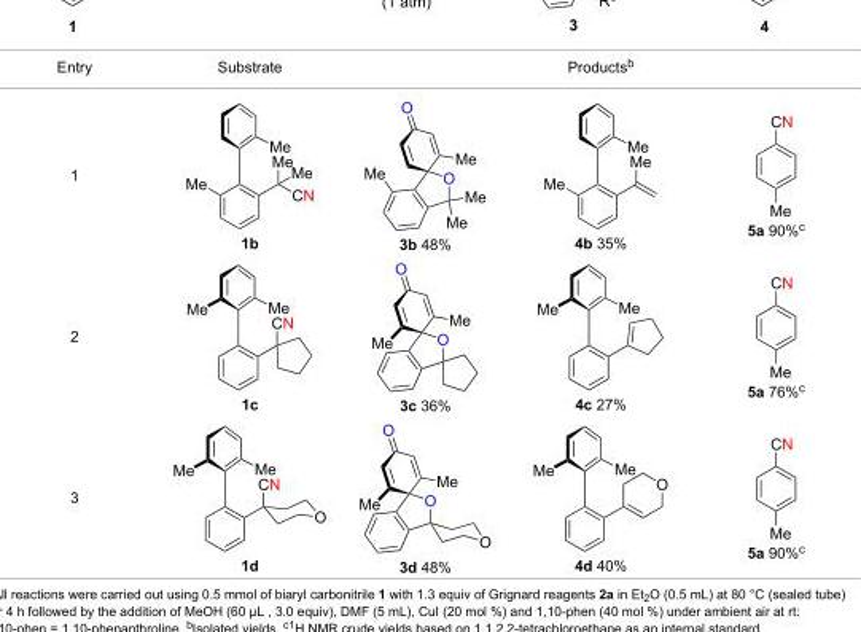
<table><tbody><tr><td>Entry</td><td>Substrate</td><td colspan="3">Productsb</td></tr><tr><td>1</td><td>1b</td><td>3b 48%</td><td>4b 35%</td><td>5a 90%c</td></tr><tr><td>2</td><td>1c</td><td>3c 36%</td><td>4c 27%</td><td>5a 76%c</td></tr><tr><td>3</td><td>1d</td><td>3d 48%</td><td>4d 40%</td><td>5a 90%c</td></tr></tbody></table>